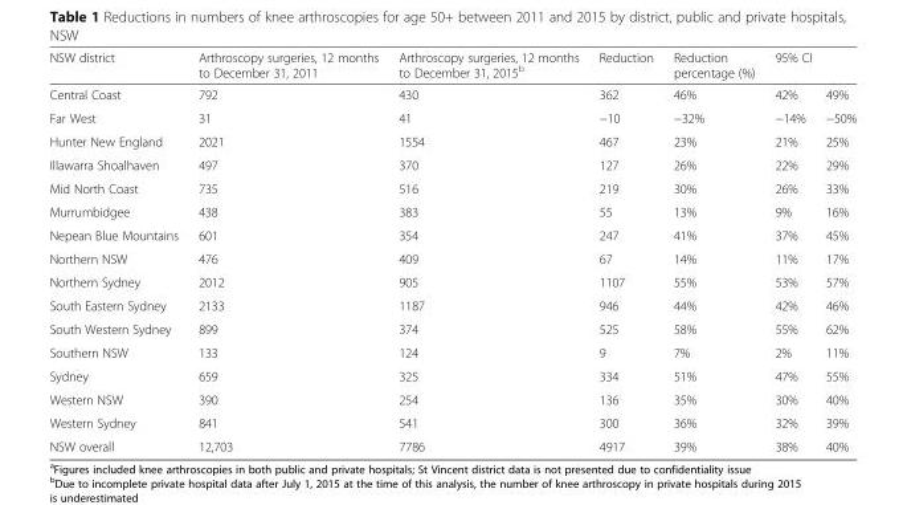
<table><thead><tr><td rowspan="2">NSW district Central Coast</td><td rowspan="2">Arthroscopy surgeries, 12 months to December 31, 2011 792</td><td rowspan="2">Arthroscopy surgeries, 12 months to December 31, 2015<sup>b</sup> 430</td><td rowspan="2">Reduction 362</td><td rowspan="2">Reduction percentage (%) 46%</td><td colspan="2">95% CI</td></tr><tr><td>42%</td><td>49%</td></tr></thead><tbody><tr><td>Far West</td><td>31</td><td>41</td><td>−10</td><td>−32%</td><td>−14%</td><td>−50%</td></tr><tr><td>Hunter New England</td><td>2021</td><td>1554</td><td>467</td><td>23%</td><td>21%</td><td>25%</td></tr><tr><td>Illawarra Shoalhaven</td><td>497</td><td>370</td><td>127</td><td>26%</td><td>22%</td><td>29%</td></tr><tr><td>Mid North Coast</td><td>735</td><td>516</td><td>219</td><td>30%</td><td>26%</td><td>33%</td></tr><tr><td>Murrumbidgee</td><td>438</td><td>383</td><td>55</td><td>13%</td><td>9%</td><td>16%</td></tr><tr><td>Nepean Blue Mountains</td><td>601</td><td>354</td><td>247</td><td>41%</td><td>37%</td><td>45%</td></tr><tr><td>Northern NSW</td><td>476</td><td>409</td><td>67</td><td>14%</td><td>11%</td><td>17%</td></tr><tr><td>Northern Sydney</td><td>2012</td><td>905</td><td>1107</td><td>55%</td><td>53%</td><td>57%</td></tr><tr><td>South Eastern Sydney</td><td>2133</td><td>1187</td><td>946</td><td>44%</td><td>42%</td><td>46%</td></tr><tr><td>South Western Sydney</td><td>899</td><td>374</td><td>525</td><td>58%</td><td>55%</td><td>62%</td></tr><tr><td>Southern NSW</td><td>133</td><td>124</td><td>9</td><td>7%</td><td>2%</td><td>11%</td></tr><tr><td>Sydney</td><td>659</td><td>325</td><td>334</td><td>51%</td><td>47%</td><td>55%</td></tr><tr><td>Western NSW</td><td>390</td><td>254</td><td>136</td><td>35%</td><td>30%</td><td>40%</td></tr><tr><td>Western Sydney</td><td>841</td><td>541</td><td>300</td><td>36%</td><td>32%</td><td>39%</td></tr><tr><td>NSW overall</td><td>12,703</td><td>7786</td><td>4917</td><td>39%</td><td>38%</td><td>40%</td></tr></tbody></table>